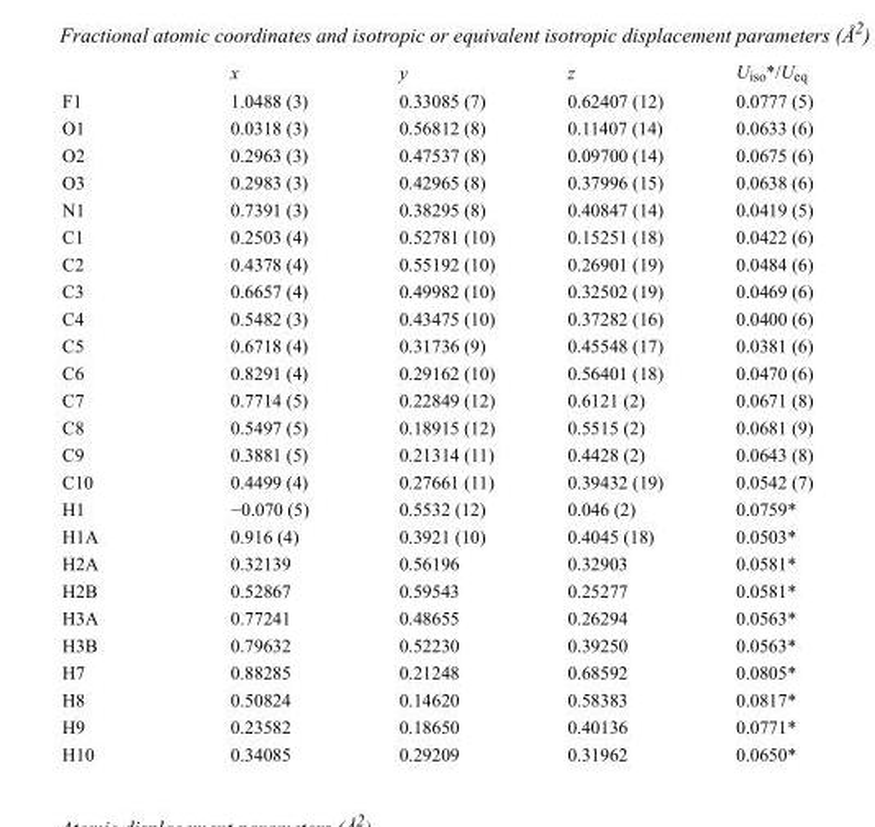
<table><thead><tr><td></td><td>x</td><td>y</td><td>z</td><td>U<sub>iso</sub>*/U<sub>eq</sub></td></tr></thead><tbody><tr><td>F1</td><td>1.0488 (3)</td><td>0.33085 (7)</td><td>0.62407 (12)</td><td>0.0777 (5)</td></tr><tr><td>O1</td><td>0.0318 (3)</td><td>0.56812 (8)</td><td>0.11407 (14)</td><td>0.0633 (6)</td></tr><tr><td>O2</td><td>0.2963 (3)</td><td>0.47537 (8)</td><td>0.09700 (14)</td><td>0.0675 (6)</td></tr><tr><td>O3</td><td>0.2983 (3)</td><td>0.42965 (8)</td><td>0.37996 (15)</td><td>0.0638 (6)</td></tr><tr><td>N1</td><td>0.7391 (3)</td><td>0.38295 (8)</td><td>0.40847 (14)</td><td>0.0419 (5)</td></tr><tr><td>C1</td><td>0.2503 (4)</td><td>0.52781 (10)</td><td>0.15251 (18)</td><td>0.0422 (6)</td></tr><tr><td>C2</td><td>0.4378 (4)</td><td>0.55192 (10)</td><td>0.26901 (19)</td><td>0.0484 (6)</td></tr><tr><td>C3</td><td>0.6657 (4)</td><td>0.49982 (10)</td><td>0.32502 (19)</td><td>0.0469 (6)</td></tr><tr><td>C4</td><td>0.5482 (3)</td><td>0.43475 (10)</td><td>0.37282 (16)</td><td>0.0400 (6)</td></tr><tr><td>C5</td><td>0.6718 (4)</td><td>0.31736 (9)</td><td>0.45548 (17)</td><td>0.0381 (6)</td></tr><tr><td>C6</td><td>0.8291 (4)</td><td>0.29162 (10)</td><td>0.56401 (18)</td><td>0.0470 (6)</td></tr><tr><td>C7</td><td>0.7714 (5)</td><td>0.22849 (12)</td><td>0.6121 (2)</td><td>0.0671 (8)</td></tr><tr><td>C8</td><td>0.5497 (5)</td><td>0.18915 (12)</td><td>0.5515 (2)</td><td>0.0681 (9)</td></tr><tr><td>C9</td><td>0.3881 (5)</td><td>0.21314 (11)</td><td>0.4428 (2)</td><td>0.0643 (8)</td></tr><tr><td>C10</td><td>0.4499 (4)</td><td>0.27661 (11)</td><td>0.39432 (19)</td><td>0.0542 (7)</td></tr><tr><td>H1</td><td>−0.070 (5)</td><td>0.5532 (12)</td><td>0.046 (2)</td><td>0.0759*</td></tr><tr><td>H1A</td><td>0.916 (4)</td><td>0.3921 (10)</td><td>0.4045 (18)</td><td>0.0503*</td></tr><tr><td>H2A</td><td>0.32139</td><td>0.56196</td><td>0.32903</td><td>0.0581*</td></tr><tr><td>H2B</td><td>0.52867</td><td>0.59543</td><td>0.25277</td><td>0.0581*</td></tr><tr><td>H3A</td><td>0.77241</td><td>0.48655</td><td>0.26294</td><td>0.0563*</td></tr><tr><td>H3B</td><td>0.79632</td><td>0.52230</td><td>0.39250</td><td>0.0563*</td></tr><tr><td>H7</td><td>0.88285</td><td>0.21248</td><td>0.68592</td><td>0.0805*</td></tr><tr><td>H8</td><td>0.50824</td><td>0.14620</td><td>0.58383</td><td>0.0817*</td></tr><tr><td>H9</td><td>0.23582</td><td>0.18650</td><td>0.40136</td><td>0.0771*</td></tr><tr><td>H10</td><td>0.34085</td><td>0.29209</td><td>0.31962</td><td>0.0650*</td></tr></tbody></table>